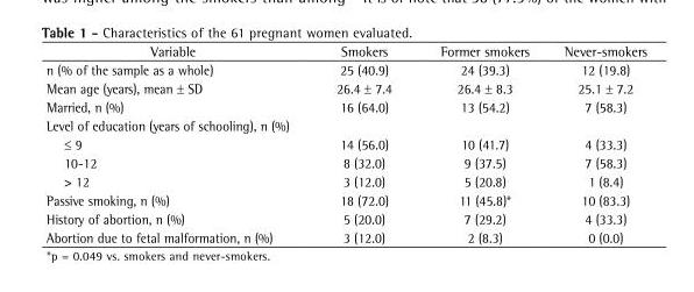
<table><thead><tr><td>Variable</td><td>Smokers</td><td>Former smokers</td><td>Never-smokers</td></tr></thead><tbody><tr><td>n (% of the sample as a whole)</td><td>25 (40.9)</td><td>24 (39.3)</td><td>12 (19.8)</td></tr><tr><td>Mean age (years), mean ± SD</td><td>26.4 ± 7.4</td><td>26.4 ± 8.3</td><td>25.1 ± 7.2</td></tr><tr><td>Married, n (%)</td><td>16 (64.0)</td><td>13 (54.2)</td><td>7 (58.3)</td></tr><tr><td colspan="4">Level of education (years of schooling), n (%)</td></tr><tr><td>≤ 9</td><td>14 (56.0)</td><td>10 (41.7)</td><td>4 (33.3)</td></tr><tr><td>10-12</td><td>8 (32.0)</td><td>9 (37.5)</td><td>7 (58.3)</td></tr><tr><td>&gt; 12</td><td>3 (12.0)</td><td>5 (20.8)</td><td>1 (8.4)</td></tr><tr><td>Passive smoking, n (%)</td><td>18 (72.0)</td><td>11 (45.8)*</td><td>10 (83.3)</td></tr><tr><td>History of abortion, n (%)</td><td>5 (20.0)</td><td>7 (29.2)</td><td>4 (33.3)</td></tr><tr><td>Abortion due to fetal malformation, n (%)</td><td>3 (12.0)</td><td>2 (8.3)</td><td>0 (0.0)</td></tr></tbody></table>